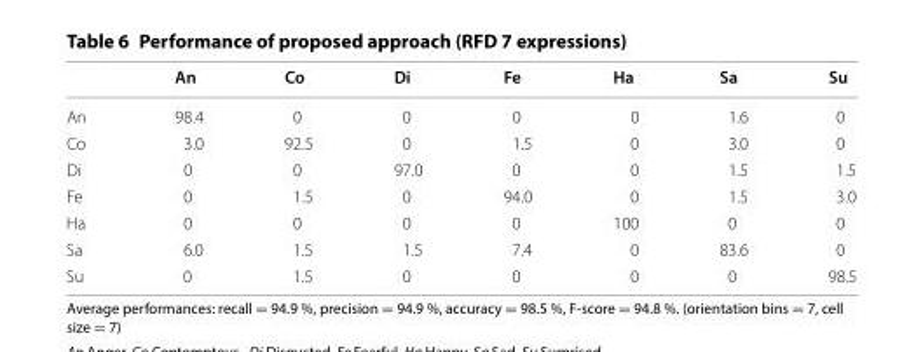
<table><thead><tr><td></td><td>An</td><td>Co</td><td>Di</td><td>Fe</td><td>Ha</td><td>Sa</td><td>Su</td></tr></thead><tbody><tr><td>An</td><td>98.4</td><td>0</td><td>0</td><td>0</td><td>0</td><td>1.6</td><td>0</td></tr><tr><td>Co</td><td>3.0</td><td>92.5</td><td>0</td><td>1.5</td><td>0</td><td>3.0</td><td>0</td></tr><tr><td>Di</td><td>0</td><td>0</td><td>97.0</td><td>0</td><td>0</td><td>1.5</td><td>1.5</td></tr><tr><td>Fe</td><td>0</td><td>1.5</td><td>0</td><td>94.0</td><td>0</td><td>1.5</td><td>3.0</td></tr><tr><td>Ha</td><td>0</td><td>0</td><td>0</td><td>0</td><td>100</td><td>0</td><td>0</td></tr><tr><td>Sa</td><td>6.0</td><td>1.5</td><td>1.5</td><td>7.4</td><td>0</td><td>83.6</td><td>0</td></tr><tr><td>Su</td><td>0</td><td>1.5</td><td>0</td><td>0</td><td>0</td><td>0</td><td>98.5</td></tr></tbody></table>